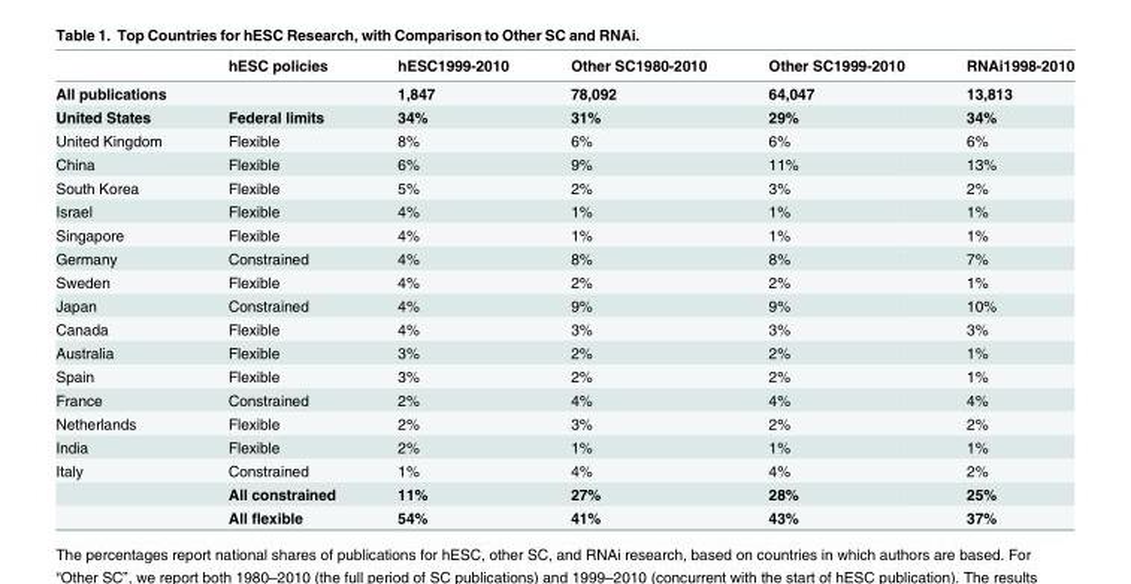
<table><thead><tr><td></td><td>hESC policies</td><td>hESC1999-2010</td><td>Other SC1980-2010</td><td>Other SC1999-2010</td><td>RNAi1998-2010</td></tr></thead><tbody><tr><td>All publications</td><td></td><td>1,847</td><td>78,092</td><td>64,047</td><td>13,813</td></tr><tr><td>United States</td><td>Federal limits</td><td>34%</td><td>31%</td><td>29%</td><td>34%</td></tr><tr><td>United Kingdom</td><td>Flexible</td><td>8%</td><td>6%</td><td>6%</td><td>6%</td></tr><tr><td>China</td><td>Flexible</td><td>6%</td><td>9%</td><td>11%</td><td>13%</td></tr><tr><td>South Korea</td><td>Flexible</td><td>5%</td><td>2%</td><td>3%</td><td>2%</td></tr><tr><td>Israel</td><td>Flexible</td><td>4%</td><td>1%</td><td>1%</td><td>1%</td></tr><tr><td>Singapore</td><td>Flexible</td><td>4%</td><td>1%</td><td>1%</td><td>1%</td></tr><tr><td>Germany</td><td>Constrained</td><td>4%</td><td>8%</td><td>8%</td><td>7%</td></tr><tr><td>Sweden</td><td>Flexible</td><td>4%</td><td>2%</td><td>2%</td><td>1%</td></tr><tr><td>Japan</td><td>Constrained</td><td>4%</td><td>9%</td><td>9%</td><td>10%</td></tr><tr><td>Canada</td><td>Flexible</td><td>4%</td><td>3%</td><td>3%</td><td>3%</td></tr><tr><td>Australia</td><td>Flexible</td><td>3%</td><td>2%</td><td>2%</td><td>1%</td></tr><tr><td>Spain</td><td>Flexible</td><td>3%</td><td>2%</td><td>2%</td><td>1%</td></tr><tr><td>France</td><td>Constrained</td><td>2%</td><td>4%</td><td>4%</td><td>4%</td></tr><tr><td>Netherlands</td><td>Flexible</td><td>2%</td><td>3%</td><td>2%</td><td>2%</td></tr><tr><td>India</td><td>Flexible</td><td>2%</td><td>1%</td><td>1%</td><td>1%</td></tr><tr><td rowspan="3">Italy</td><td>Constrained</td><td>1%</td><td>4%</td><td>4%</td><td>2%</td></tr><tr><td>All constrained</td><td>11%</td><td>27%</td><td>28%</td><td>25%</td></tr><tr><td>All flexible</td><td>54%</td><td>41%</td><td>43%</td><td>37%</td></tr></tbody></table>